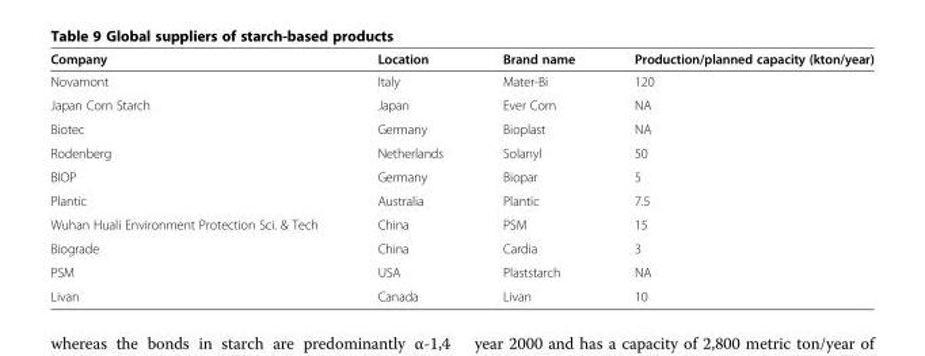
<table><thead><tr><td>Company</td><td>Location</td><td>Brand name</td><td>Production/planned capacity (kton/year)</td></tr></thead><tbody><tr><td>Novamont</td><td>Italy</td><td>Mater-Bi</td><td>120</td></tr><tr><td>Japan Corn Starch</td><td>Japan</td><td>Ever Corn</td><td>NA</td></tr><tr><td>Biotec</td><td>Germany</td><td>Bioplast</td><td>NA</td></tr><tr><td>Rodenberg</td><td>Netherlands</td><td>Solanyl</td><td>50</td></tr><tr><td>BIOP</td><td>Germany</td><td>Biopar</td><td>5</td></tr><tr><td>Plantic</td><td>Australia</td><td>Plantic</td><td>7.5</td></tr><tr><td>Wuhan Huali Environment Protection Sci. &amp; Tech</td><td>China</td><td>PSM</td><td>15</td></tr><tr><td>Biograde</td><td>China</td><td>Cardia</td><td>3</td></tr><tr><td>PSM</td><td>USA</td><td>Plaststarch</td><td>NA</td></tr><tr><td>Livan</td><td>Canada</td><td>Livan</td><td>10</td></tr></tbody></table>